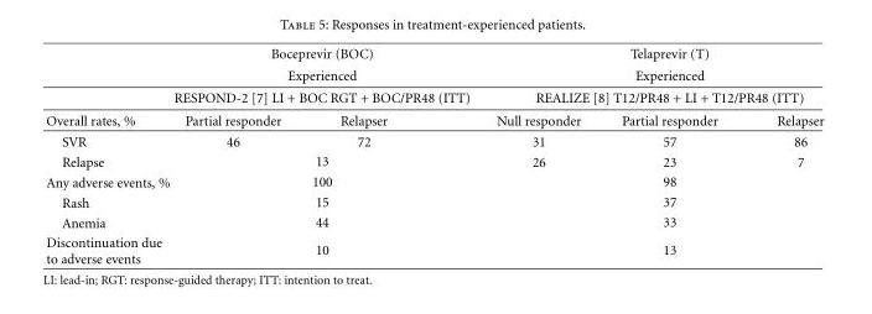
<table><thead><tr><td rowspan="4">Overall rates, %</td><td rowspan="3" colspan="2">Boceprevir (BOC) Experienced RESPOND-2 [7] LI + BOC RGT + BOC/PR48 (ITT)</td><td rowspan="3" colspan="3">Telaprevir (T) Experienced REALIZE [8] T12/PR48 + LI + T12/PR48 (ITT)</td></tr><tr></tr><tr></tr><tr><td>Partial responder</td><td>Relapser</td><td>Null responder</td><td>Partial responder</td><td>Relapser</td></tr></thead><tbody><tr><td>SVR</td><td>46</td><td>72</td><td>31</td><td>57</td><td>86</td></tr><tr><td>Relapse</td><td colspan="2">13</td><td>26</td><td>23</td><td>7</td></tr><tr><td>Any adverse events, %</td><td colspan="2">100</td><td colspan="3">98</td></tr><tr><td>Rash</td><td colspan="2">15</td><td colspan="3">37</td></tr><tr><td>Anemia</td><td colspan="2">44</td><td colspan="3">33</td></tr><tr><td>Discontinuation due to adverse events</td><td colspan="2">10</td><td colspan="3">13</td></tr></tbody></table>